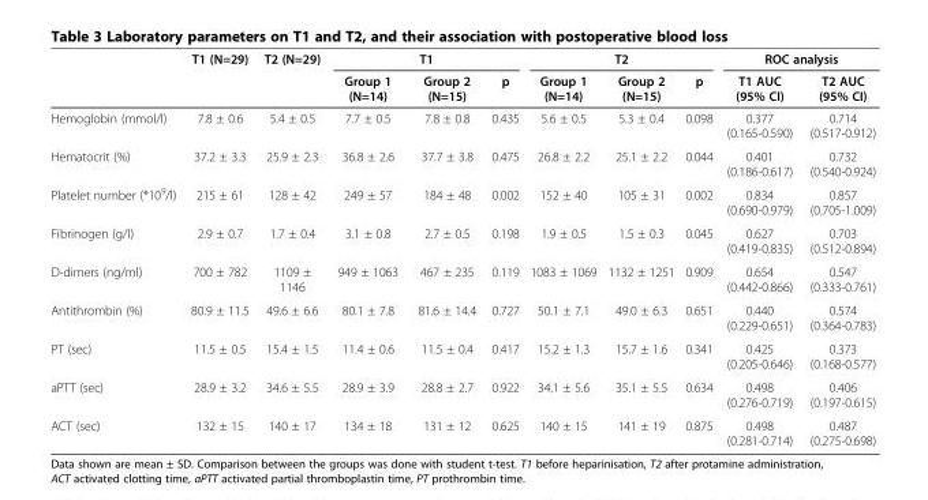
<table><thead><tr><td rowspan="2"></td><td rowspan="2">T1 (N=29)</td><td rowspan="2">T2 (N=29)</td><td colspan="3">T1</td><td colspan="3">T2</td><td colspan="2">ROC analysis</td></tr><tr><td>Group 1 (N=14)</td><td>Group 2 (N=15)</td><td>p</td><td>Group 1 (N=14)</td><td>Group 2 (N=15)</td><td>p</td><td>T1 AUC (95% CI)</td><td>T2 AUC (95% CI)</td></tr></thead><tbody><tr><td>Hemoglobin (mmol/l)</td><td>7.8 ± 0.6</td><td>5.4 ± 0.5</td><td>7.7 ± 0.5</td><td>7.8 ± 0.8</td><td>0.435</td><td>5.6 ± 0.5</td><td>5.3 ± 0.4</td><td>0.098</td><td>0.377 (0.165-0.590)</td><td>0.714 (0.517-0.912)</td></tr><tr><td>Hematocrit (%)</td><td>37.2 ± 3.3</td><td>25.9 ± 2.3</td><td>36.8 ± 2.6</td><td>37.7 ± 3.8</td><td>0.475</td><td>26.8 ± 2.2</td><td>25.1 ± 2.2</td><td>0.044</td><td>0.401 (0.186-0.617)</td><td>0.732 (0.540-0.924)</td></tr><tr><td>Platelet number (*10<sup>9</sup>/l)</td><td>215 ± 61</td><td>128 ± 42</td><td>249 ± 57</td><td>184 ± 48</td><td>0.002</td><td>152 ± 40</td><td>105 ± 31</td><td>0.002</td><td>0.834 (0.690-0.979)</td><td>0.857 (0.705-1.009)</td></tr><tr><td>Fibrinogen (g/l)</td><td>2.9 ± 0.7</td><td>1.7 ± 0.4</td><td>3.1 ± 0.8</td><td>2.7 ± 0.5</td><td>0.198</td><td>1.9 ± 0.5</td><td>1.5 ± 0.3</td><td>0.045</td><td>0.627 (0.419-0.835)</td><td>0.703 (0.512-0.894)</td></tr><tr><td>D-dimers (ng/ml)</td><td>700 ± 782</td><td>1109 ± 1146</td><td>949 ± 1063</td><td>467 ± 235</td><td>0.119</td><td>1083 ± 1069</td><td>1132 ± 1251</td><td>0.909</td><td>0.654 (0.442-0.866)</td><td>0.547 (0.333-0.761)</td></tr><tr><td>Antithrombin (%)</td><td>80.9 ± 11.5</td><td>49.6 ± 6.6</td><td>80.1 ± 7.8</td><td>81.6 ± 14.4</td><td>0.727</td><td>50.1 ± 7.1</td><td>49.0 ± 6.3</td><td>0.651</td><td>0.440 (0.229-0.651)</td><td>0.574 (0.364-0.783)</td></tr><tr><td>PT (sec)</td><td>11.5 ± 0.5</td><td>15.4 ± 1.5</td><td>11.4 ± 0.6</td><td>11.5 ± 0.4</td><td>0.417</td><td>15.2 ± 1.3</td><td>15.7 ± 1.6</td><td>0.341</td><td>0.425 (0.205-0.646)</td><td>0.373 (0.168-0.577)</td></tr><tr><td>aPTT (sec)</td><td>28.9 ± 3.2</td><td>34.6 ± 5.5</td><td>28.9 ± 3.9</td><td>28.8 ± 2.7</td><td>0.922</td><td>34.1 ± 5.6</td><td>35.1 ± 5.5</td><td>0.634</td><td>0.498 (0.276-0.719)</td><td>0.406 (0.197-0.615)</td></tr><tr><td>ACT (sec)</td><td>132 ± 15</td><td>140 ± 17</td><td>134 ± 18</td><td>131 ± 12</td><td>0.625</td><td>140 ± 15</td><td>141 ± 19</td><td>0.875</td><td>0.498 (0.281-0.714)</td><td>0.487 (0.275-0.698)</td></tr></tbody></table>